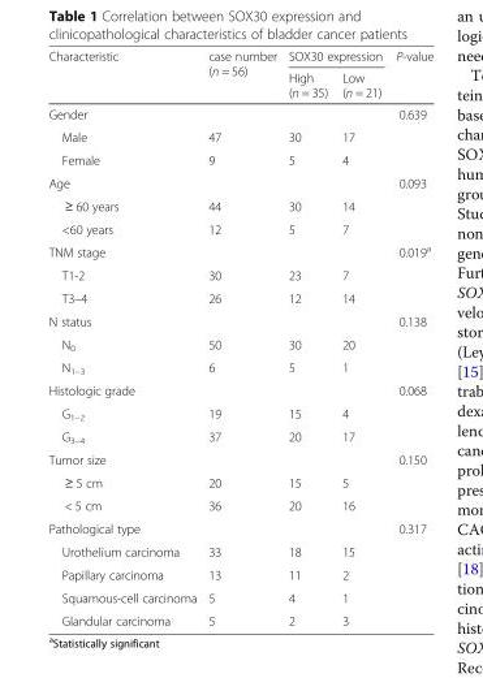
<table><thead><tr><td rowspan="2">Characteristic</td><td rowspan="2">case number (n = 56)</td><td colspan="2">SOX30 expression</td><td rowspan="2">P-value</td></tr><tr><td>High (n = 35)</td><td>Low (n = 21)</td></tr></thead><tbody><tr><td>Gender</td><td></td><td></td><td></td><td>0.639</td></tr><tr><td>Male</td><td>47</td><td>30</td><td>17</td><td></td></tr><tr><td>Female</td><td>9</td><td>5</td><td>4</td><td></td></tr><tr><td>Age</td><td></td><td></td><td></td><td>0.093</td></tr><tr><td>≥ 60 years</td><td>44</td><td>30</td><td>14</td><td></td></tr><tr><td>&lt;60 years</td><td>12</td><td>5</td><td>7</td><td></td></tr><tr><td>TNM stage</td><td></td><td></td><td></td><td>0.019<sup>a</sup></td></tr><tr><td>T1-2</td><td>30</td><td>23</td><td>7</td><td></td></tr><tr><td>T3–4</td><td>26</td><td>12</td><td>14</td><td></td></tr><tr><td>N status</td><td></td><td></td><td></td><td>0.138</td></tr><tr><td>N<sub>0</sub></td><td>50</td><td>30</td><td>20</td><td></td></tr><tr><td>N<sub>1–3</sub></td><td>6</td><td>5</td><td>1</td><td></td></tr><tr><td>Histologic grade</td><td></td><td></td><td></td><td>0.068</td></tr><tr><td>G<sub>1–2</sub></td><td>19</td><td>15</td><td>4</td><td></td></tr><tr><td>G<sub>3–4</sub></td><td>37</td><td>20</td><td>17</td><td></td></tr><tr><td>Tumor size</td><td></td><td></td><td></td><td>0.150</td></tr><tr><td>≥ 5 cm</td><td>20</td><td>15</td><td>5</td><td></td></tr><tr><td>&lt; 5 cm</td><td>36</td><td>20</td><td>16</td><td></td></tr><tr><td>Pathological type</td><td></td><td></td><td></td><td>0.317</td></tr><tr><td>Urothelium carcinoma</td><td>33</td><td>18</td><td>15</td><td></td></tr><tr><td>Papillary carcinoma</td><td>13</td><td>11</td><td>2</td><td></td></tr><tr><td>Squamous-cell carcinoma</td><td>5</td><td>4</td><td>1</td><td></td></tr><tr><td>Glandular carcinoma</td><td>5</td><td>2</td><td>3</td><td></td></tr></tbody></table>